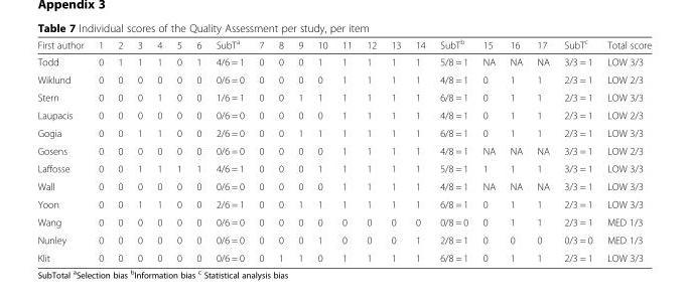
<table><thead><tr><td>First author</td><td>1</td><td>2</td><td>3</td><td>4</td><td>5</td><td>6</td><td>SubT<sup>a</sup></td><td>7</td><td>8</td><td>9</td><td>10</td><td>11</td><td>12</td><td>13</td><td>14</td><td>SubT<sup>b</sup></td><td>15</td><td>16</td><td>17</td><td>SubT<sup>c</sup></td><td>Total score</td></tr></thead><tbody><tr><td>Todd</td><td>0</td><td>1</td><td>1</td><td>1</td><td>0</td><td>1</td><td>4/6 = 1</td><td>0</td><td>0</td><td>0</td><td>1</td><td>1</td><td>1</td><td>1</td><td>1</td><td>5/8 = 1</td><td>NA</td><td>NA</td><td>NA</td><td>3/3 = 1</td><td>LOW 3/3</td></tr><tr><td>Wiklund</td><td>0</td><td>0</td><td>0</td><td>0</td><td>0</td><td>0</td><td>0/6 = 0</td><td>0</td><td>0</td><td>0</td><td>0</td><td>1</td><td>1</td><td>1</td><td>1</td><td>4/8 = 1</td><td>0</td><td>1</td><td>1</td><td>2/3 = 1</td><td>LOW 2/3</td></tr><tr><td>Stern</td><td>0</td><td>0</td><td>0</td><td>1</td><td>0</td><td>0</td><td>1/6 = 1</td><td>0</td><td>0</td><td>1</td><td>1</td><td>1</td><td>1</td><td>1</td><td>1</td><td>6/8 = 1</td><td>0</td><td>1</td><td>1</td><td>2/3 = 1</td><td>LOW 3/3</td></tr><tr><td>Laupacis</td><td>0</td><td>0</td><td>0</td><td>0</td><td>0</td><td>0</td><td>0/6 = 0</td><td>0</td><td>0</td><td>0</td><td>0</td><td>1</td><td>1</td><td>1</td><td>1</td><td>4/8 = 1</td><td>0</td><td>1</td><td>1</td><td>2/3 = 1</td><td>LOW 2/3</td></tr><tr><td>Gogia</td><td>0</td><td>0</td><td>1</td><td>1</td><td>0</td><td>0</td><td>2/6 = 0</td><td>0</td><td>0</td><td>1</td><td>1</td><td>1</td><td>1</td><td>1</td><td>1</td><td>6/8 = 1</td><td>0</td><td>1</td><td>1</td><td>2/3 = 1</td><td>LOW 3/3</td></tr><tr><td>Gosens</td><td>0</td><td>0</td><td>0</td><td>0</td><td>0</td><td>0</td><td>0/6 = 0</td><td>0</td><td>0</td><td>0</td><td>0</td><td>1</td><td>1</td><td>1</td><td>1</td><td>4/8 = 1</td><td>NA</td><td>NA</td><td>NA</td><td>3/3 = 1</td><td>LOW 2/3</td></tr><tr><td>Laffosse</td><td>0</td><td>0</td><td>1</td><td>1</td><td>1</td><td>1</td><td>4/6 = 1</td><td>0</td><td>0</td><td>0</td><td>1</td><td>1</td><td>1</td><td>1</td><td>1</td><td>5/8 = 1</td><td>1</td><td>1</td><td>1</td><td>3/3 = 1</td><td>LOW 3/3</td></tr><tr><td>Wall</td><td>0</td><td>0</td><td>0</td><td>0</td><td>0</td><td>0</td><td>0/6 = 0</td><td>0</td><td>0</td><td>0</td><td>0</td><td>1</td><td>1</td><td>1</td><td>1</td><td>4/8 = 1</td><td>NA</td><td>NA</td><td>NA</td><td>3/3 = 1</td><td>LOW 3/3</td></tr><tr><td>Yoon</td><td>0</td><td>0</td><td>1</td><td>1</td><td>0</td><td>0</td><td>2/6 = 1</td><td>0</td><td>0</td><td>1</td><td>1</td><td>1</td><td>1</td><td>1</td><td>1</td><td>6/8 = 1</td><td>0</td><td>1</td><td>1</td><td>2/3 = 1</td><td>LOW 3/3</td></tr><tr><td>Wang</td><td>0</td><td>0</td><td>0</td><td>0</td><td>0</td><td>0</td><td>0/6 = 0</td><td>0</td><td>0</td><td>0</td><td>0</td><td>0</td><td>0</td><td>0</td><td>0</td><td>0/8 = 0</td><td>0</td><td>1</td><td>1</td><td>2/3 = 1</td><td>MED 1/3</td></tr><tr><td>Nunley</td><td>0</td><td>0</td><td>0</td><td>0</td><td>0</td><td>0</td><td>0/6 = 0</td><td>0</td><td>0</td><td>0</td><td>1</td><td>0</td><td>0</td><td>0</td><td>1</td><td>2/8 = 1</td><td>0</td><td>0</td><td>0</td><td>0/3 = 0</td><td>MED 1/3</td></tr><tr><td>Klit</td><td>0</td><td>0</td><td>0</td><td>0</td><td>0</td><td>0</td><td>0/6 = 0</td><td>0</td><td>1</td><td>1</td><td>0</td><td>1</td><td>1</td><td>1</td><td>1</td><td>6/8 = 1</td><td>0</td><td>1</td><td>1</td><td>2/3 = 1</td><td>LOW 3/3</td></tr></tbody></table>